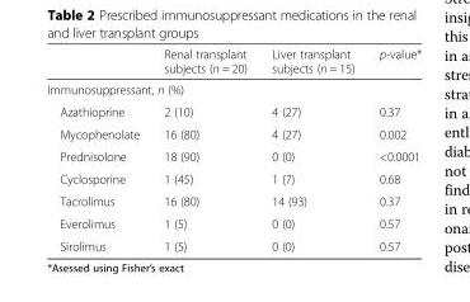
<table><thead><tr><td></td><td>Renal transplant subjects (n = 20)</td><td>Liver transplant subjects (n = 15)</td><td>p-value*</td></tr></thead><tbody><tr><td colspan="4">Immunosuppressant, n (%)</td></tr><tr><td>Azathioprine</td><td>2 (10)</td><td>4 (27)</td><td>0.37</td></tr><tr><td>Mycophenolate</td><td>16 (80)</td><td>4 (27)</td><td>0.002</td></tr><tr><td>Prednisolone</td><td>18 (90)</td><td>0 (0)</td><td>&lt;0.0001</td></tr><tr><td>Cyclosporine</td><td>1 (45)</td><td>1 (7)</td><td>0.68</td></tr><tr><td>Tacrolimus</td><td>16 (80)</td><td>14 (93)</td><td>0.37</td></tr><tr><td>Everolimus</td><td>1 (5)</td><td>0 (0)</td><td>0.57</td></tr><tr><td>Sirolimus</td><td>1 (5)</td><td>0 (0)</td><td>0.57</td></tr></tbody></table>